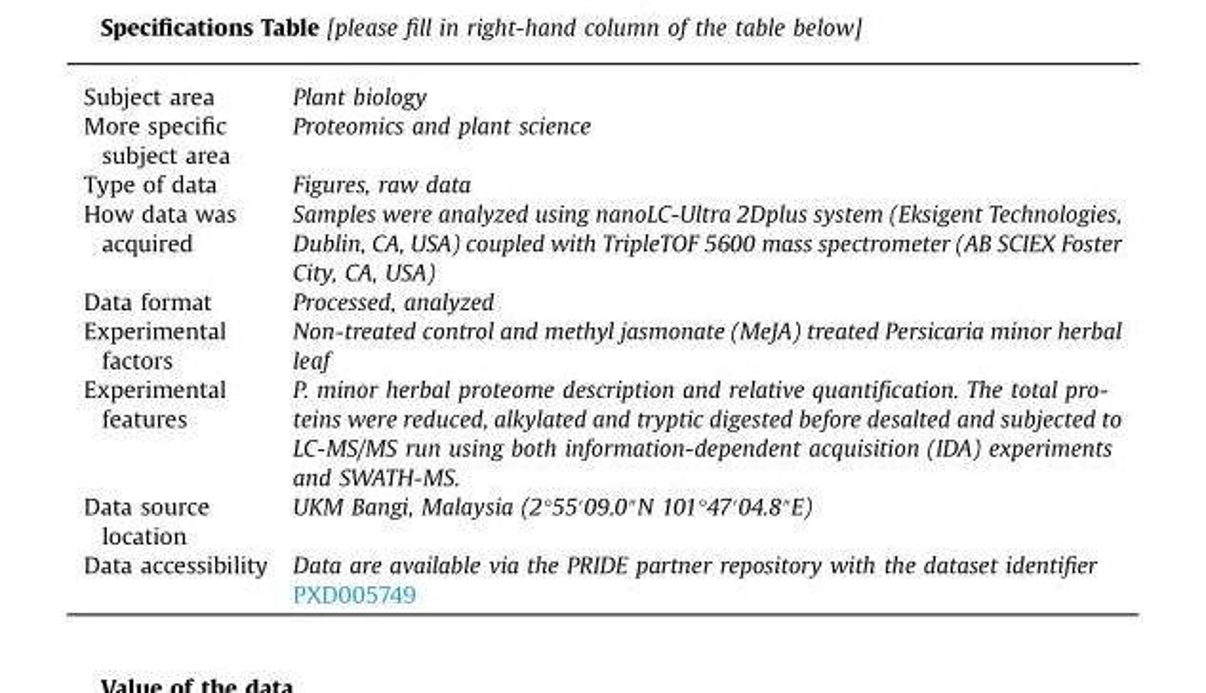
<table><tbody><tr><td>Subject area</td><td>Plant biology</td></tr><tr><td>More specific subject area</td><td>Proteomics and plant science</td></tr><tr><td>Type of data</td><td>Figures, raw data</td></tr><tr><td>How data was acquired</td><td>Samples were analyzed using nanoLC-Ultra 2Dplus system (Eksigent Technologies, Dublin, CA, USA) coupled with TripleTOF 5600 mass spectrometer (AB SCIEX Foster City, CA, USA)</td></tr><tr><td>Data format</td><td>Processed, analyzed</td></tr><tr><td>Experimental factors</td><td>Non-treated control and methyl jasmonate (MeJA) treated Persicaria minor herbal leaf</td></tr><tr><td>Experimental features</td><td>P. minor herbal proteome description and relative quantification. The total pro- teins were reduced, alkylated and tryptic digested before desalted and subjected to LC-MS/MS run using both information-dependent acquisition (IDA) experiments and SWATH-MS.</td></tr><tr><td>Data source location</td><td>UKM Bangi, Malaysia (2°55′09.0″N 101°47′04.8″E)</td></tr><tr><td>Data accessibility</td><td>Data are available via the PRIDE partner repository with the dataset identifier PXD005749</td></tr></tbody></table>